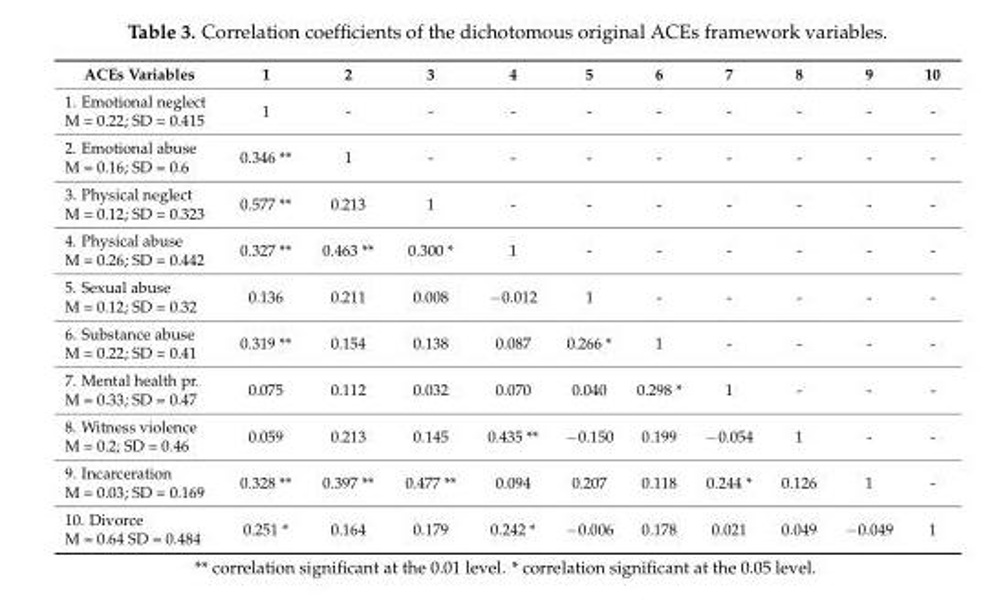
<table><thead><tr><td>ACEs Variables</td><td>1</td><td>2</td><td>3</td><td>4</td><td>5</td><td>6</td><td>7</td><td>8</td><td>9</td><td>10</td></tr></thead><tbody><tr><td>1. Emotional neglect M = 0.22; SD = 0.415</td><td>1</td><td>-</td><td>-</td><td>-</td><td>-</td><td>-</td><td>-</td><td>-</td><td>-</td><td>-</td></tr><tr><td>2. Emotional abuse M = 0.16; SD = 0.6</td><td>0.346 **</td><td>1</td><td>-</td><td>-</td><td>-</td><td>-</td><td>-</td><td>-</td><td>-</td><td>-</td></tr><tr><td>3. Physical neglect M = 0.12; SD = 0.323</td><td>0.577 **</td><td>0.213</td><td>1</td><td>-</td><td>-</td><td>-</td><td>-</td><td>-</td><td>-</td><td>-</td></tr><tr><td>4. Physical abuse M = 0.26; SD = 0.442</td><td>0.327 **</td><td>0.463 **</td><td>0.300 *</td><td>1</td><td>-</td><td>-</td><td>-</td><td>-</td><td>-</td><td>-</td></tr><tr><td>5. Sexual abuse M = 0.12; SD = 0.32</td><td>0.136</td><td>0.211</td><td>0.008</td><td>−0.012</td><td>1</td><td>-</td><td>-</td><td>-</td><td>-</td><td>-</td></tr><tr><td>6. Substance abuse M = 0.22; SD = 0.41</td><td>0.319 **</td><td>0.154</td><td>0.138</td><td>0.087</td><td>0.266 *</td><td>1</td><td>-</td><td>-</td><td>-</td><td>-</td></tr><tr><td>7. Mental health pr. M = 0.33; SD = 0.47</td><td>0.075</td><td>0.112</td><td>0.032</td><td>0.070</td><td>0.040</td><td>0.298 *</td><td>1</td><td>-</td><td>-</td><td>-</td></tr><tr><td>8. Witness violence M = 0.2; SD = 0.46</td><td>0.059</td><td>0.213</td><td>0.145</td><td>0.435 **</td><td>−0.150</td><td>0.199</td><td>−0.054</td><td>1</td><td>-</td><td>-</td></tr><tr><td>9. Incarceration M = 0.03; SD = 0.169</td><td>0.328 **</td><td>0.397 **</td><td>0.477 **</td><td>0.094</td><td>0.207</td><td>0.118</td><td>0.244 *</td><td>0.126</td><td>1</td><td>-</td></tr><tr><td>10. Divorce M = 0.64 SD = 0.484</td><td>0.251 *</td><td>0.164</td><td>0.179</td><td>0.242 *</td><td>−0.006</td><td>0.178</td><td>0.021</td><td>0.049</td><td>−0.049</td><td>1</td></tr></tbody></table>